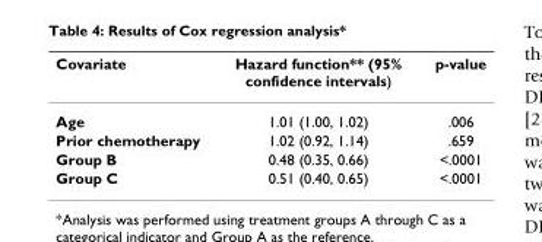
<table><thead><tr><td>Covariate</td><td>Hazard function** (95% confidence intervals)</td><td>p-value</td></tr></thead><tbody><tr><td>Age</td><td>1.01 (1.00, 1.02)</td><td>.006</td></tr><tr><td>Prior chemotherapy</td><td>1.02 (0.92, 1.14)</td><td>.659</td></tr><tr><td>Group B</td><td>0.48 (0.35, 0.66)</td><td>&lt;.0001</td></tr><tr><td>Group C</td><td>0.51 (0.40, 0.65)</td><td>&lt;.0001</td></tr></tbody></table>